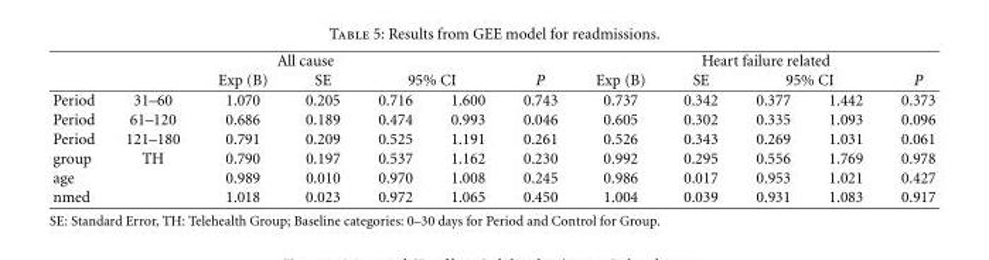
<table><tbody><tr><td colspan="7">All cause</td><td colspan="5">Heart failure related</td></tr><tr><td></td><td></td><td>Exp (B)</td><td>SE</td><td colspan="2">95% CI</td><td>P</td><td>Exp (B)</td><td>SE</td><td colspan="2">95% CI</td><td>P</td></tr><tr><td>Period</td><td>31–60</td><td>1.070</td><td>0.205</td><td>0.716</td><td>1.600</td><td>0.743</td><td>0.737</td><td>0.342</td><td>0.377</td><td>1.442</td><td>0.373</td></tr><tr><td>Period</td><td>61–120</td><td>0.686</td><td>0.189</td><td>0.474</td><td>0.993</td><td>0.046</td><td>0.605</td><td>0.302</td><td>0.335</td><td>1.093</td><td>0.096</td></tr><tr><td>Period</td><td>121–180</td><td>0.791</td><td>0.209</td><td>0.525</td><td>1.191</td><td>0.261</td><td>0.526</td><td>0.343</td><td>0.269</td><td>1.031</td><td>0.061</td></tr><tr><td>group</td><td>TH</td><td>0.790</td><td>0.197</td><td>0.537</td><td>1.162</td><td>0.230</td><td>0.992</td><td>0.295</td><td>0.556</td><td>1.769</td><td>0.978</td></tr><tr><td>age</td><td></td><td>0.989</td><td>0.010</td><td>0.970</td><td>1.008</td><td>0.245</td><td>0.986</td><td>0.017</td><td>0.953</td><td>1.021</td><td>0.427</td></tr><tr><td>nmed</td><td></td><td>1.018</td><td>0.023</td><td>0.972</td><td>1.065</td><td>0.450</td><td>1.004</td><td>0.039</td><td>0.931</td><td>1.083</td><td>0.917</td></tr></tbody></table>